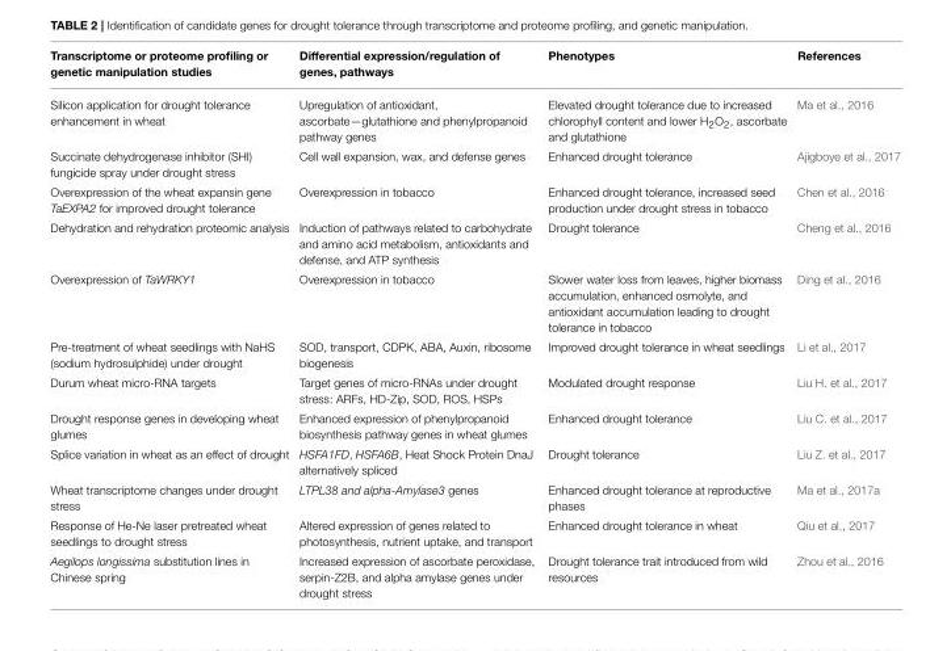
<table><thead><tr><td>Transcriptome or proteome profiling or genetic manipulation studies</td><td>Differential expression/regulation of genes, pathways</td><td>Phenotypes</td><td>References</td></tr></thead><tbody><tr><td>Silicon application for drought tolerance enhancement in wheat</td><td>Upregulation of antioxidant, ascorbate—glutathione and phenylpropanoid pathway genes</td><td>Elevated drought tolerance due to increased chlorophyll content and lower H<sub>2</sub>O<sub>2</sub>, ascorbate and glutathione</td><td>Ma et al., 2016</td></tr><tr><td>Succinate dehydrogenase inhibitor (SHI) fungicide spray under drought stress</td><td>Cell wall expansion, wax, and defense genes</td><td>Enhanced drought tolerance</td><td>Ajigboye et al., 2017</td></tr><tr><td>Overexpression of the wheat expansin gene TaEXPA2 for improved drought tolerance</td><td>Overexpression in tobacco</td><td>Enhanced drought tolerance, increased seed production under drought stress in tobacco</td><td>Chen et al., 2016</td></tr><tr><td>Dehydration and rehydration proteomic analysis</td><td>Induction of pathways related to carbohydrate and amino acid metabolism, antioxidants and defense, and ATP synthesis</td><td>Drought tolerance</td><td>Cheng et al., 2016</td></tr><tr><td>Overexpression of TaWRKY1</td><td>Overexpression in tobacco</td><td>Slower water loss from leaves, higher biomass accumulation, enhanced osmolyte, and antioxidant accumulation leading to drought tolerance in tobacco</td><td>Ding et al., 2016</td></tr><tr><td>Pre-treatment of wheat seedlings with NaHS (sodium hydrosulphide) under drought</td><td>SOD, transport, CDPK, ABA, Auxin, ribosome biogenesis</td><td>Improved drought tolerance in wheat seedlings</td><td>Li et al., 2017</td></tr><tr><td>Durum wheat micro-RNA targets</td><td>Target genes of micro-RNAs under drought stress: ARFs, HD-Zip, SOD, ROS, HSPs</td><td>Modulated drought response</td><td>Liu H. et al., 2017</td></tr><tr><td>Drought response genes in developing wheat glumes</td><td>Enhanced expression of phenylpropanoid biosynthesis pathway genes in wheat glumes</td><td>Enhanced drought tolerance</td><td>Liu C. et al., 2017</td></tr><tr><td>Splice variation in wheat as an effect of drought</td><td>HSFA1FD, HSFA6B, Heat Shock Protein DnaJ alternatively spliced</td><td>Drought tolerance</td><td>Liu Z. et al., 2017</td></tr><tr><td>Wheat transcriptome changes under drought stress</td><td>LTPL38 and alpha-Amylase3 genes</td><td>Enhanced drought tolerance at reproductive phases</td><td>Ma et al., 2017a</td></tr><tr><td>Response of He-Ne laser pretreated wheat seedlings to drought stress</td><td>Altered expression of genes related to photosynthesis, nutrient uptake, and transport</td><td>Enhanced drought tolerance in wheat</td><td>Qiu et al., 2017</td></tr><tr><td>Aegilops longissima substitution lines in Chinese spring</td><td>Increased expression of ascorbate peroxidase, serpin-Z2B, and alpha amylase genes under drought stress</td><td>Drought tolerance trait introduced from wild resources</td><td>Zhou et al., 2016</td></tr></tbody></table>